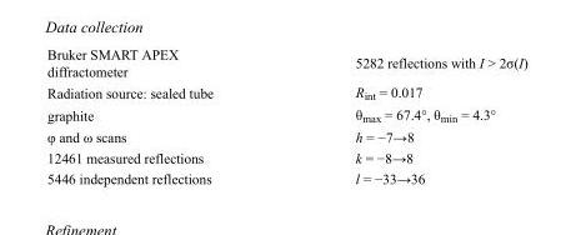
<table><tbody><tr><td>Bruker SMART APEX diffractometer</td><td>5282 reflections with I &gt; 2σ(I)</td></tr><tr><td>Radiation source: sealed tube</td><td>R<sub>int</sub> = 0.017</td></tr><tr><td>graphite</td><td>θ<sub>max</sub> = 67.4°, θ<sub>min</sub> = 4.3°</td></tr><tr><td>φ and ω scans</td><td>h = −7→8</td></tr><tr><td>12461 measured reflections</td><td>k = −8→8</td></tr><tr><td>5446 independent reflections</td><td>l = −33→36</td></tr></tbody></table>